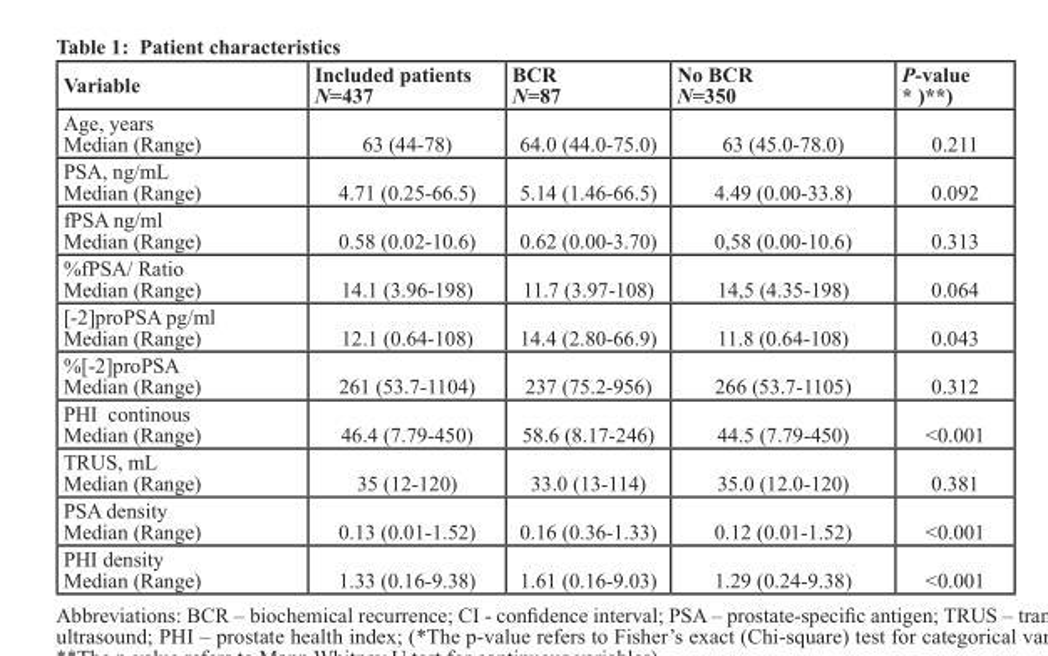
<table><thead><tr><td>Variable</td><td>Included patients N=437</td><td>BCR N=87</td><td>No BCR N=350</td><td>P-value * )**)</td></tr></thead><tbody><tr><td>Age, years Median (Range)</td><td>63 (44-78)</td><td>64.0 (44.0-75.0)</td><td>63 (45.0-78.0)</td><td>0.211</td></tr><tr><td>PSA, ng/mL Median (Range)</td><td>4.71 (0.25-66.5)</td><td>5.14 (1.46-66.5)</td><td>4.49 (0.00-33.8)</td><td>0.092</td></tr><tr><td>fPSA ng/ml Median (Range)</td><td>0.58 (0.02-10.6)</td><td>0.62 (0.00-3.70)</td><td>0,58 (0.00-10.6)</td><td>0.313</td></tr><tr><td>%fPSA/ Ratio Median (Range)</td><td>14.1 (3.96-198)</td><td>11.7 (3.97-108)</td><td>14,5 (4.35-198)</td><td>0.064</td></tr><tr><td>[-2]proPSA pg/ml Median (Range)</td><td>12.1 (0.64-108)</td><td>14.4 (2.80-66.9)</td><td>11.8 (0.64-108)</td><td>0.043</td></tr><tr><td>%[-2]proPSA Median (Range)</td><td>261 (53.7-1104)</td><td>237 (75.2-956)</td><td>266 (53.7-1105)</td><td>0.312</td></tr><tr><td>PHI continous Median (Range)</td><td>46.4 (7.79-450)</td><td>58.6 (8.17-246)</td><td>44.5 (7.79-450)</td><td>&lt;0.001</td></tr><tr><td>TRUS, mL Median (Range)</td><td>35 (12-120)</td><td>33.0 (13-114)</td><td>35.0 (12.0-120)</td><td>0.381</td></tr><tr><td>PSA density Median (Range)</td><td>0.13 (0.01-1.52)</td><td>0.16 (0.36-1.33)</td><td>0.12 (0.01-1.52)</td><td>&lt;0.001</td></tr><tr><td>PHI density Median (Range)</td><td>1.33 (0.16-9.38)</td><td>1.61 (0.16-9.03)</td><td>1.29 (0.24-9.38)</td><td>&lt;0.001</td></tr></tbody></table>